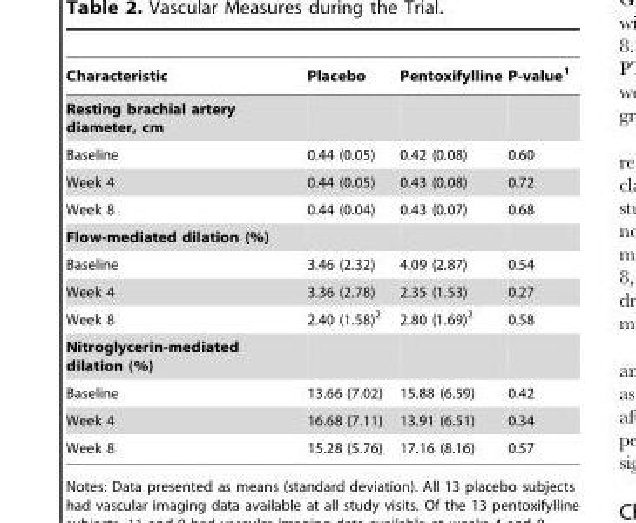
<table><thead><tr><td>Characteristic</td><td>Placebo</td><td>Pentoxifylline</td><td>P-value<sup>1</sup></td></tr></thead><tbody><tr><td colspan="4">Resting brachial artery diameter, cm</td></tr><tr><td>Baseline</td><td>0.44 (0.05)</td><td>0.42 (0.08)</td><td>0.60</td></tr><tr><td>Week 4</td><td>0.44 (0.05)</td><td>0.43 (0.08)</td><td>0.72</td></tr><tr><td>Week 8</td><td>0.44 (0.04)</td><td>0.43 (0.07)</td><td>0.68</td></tr><tr><td colspan="4">Flow-mediated dilation (%)</td></tr><tr><td>Baseline</td><td>3.46 (2.32)</td><td>4.09 (2.87)</td><td>0.54</td></tr><tr><td>Week 4</td><td>3.36 (2.78)</td><td>2.35 (1.53)</td><td>0.27</td></tr><tr><td>Week 8</td><td>2.40 (1.58)<sup>2</sup></td><td>2.80 (1.69)<sup>2</sup></td><td>0.58</td></tr><tr><td colspan="4">Nitroglycerin-mediated dilation (%)</td></tr><tr><td>Baseline</td><td>13.66 (7.02)</td><td>15.88 (6.59)</td><td>0.42</td></tr><tr><td>Week 4</td><td>16.68 (7.11)</td><td>13.91 (6.51)</td><td>0.34</td></tr><tr><td>Week 8</td><td>15.28 (5.76)</td><td>17.16 (8.16)</td><td>0.57</td></tr></tbody></table>